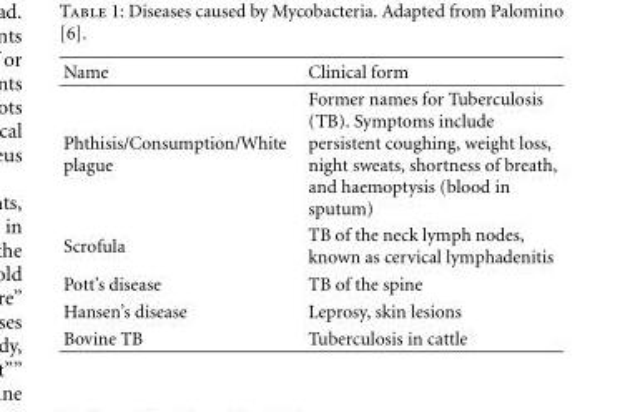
<table><thead><tr><td>Name</td><td>Clinical form</td></tr></thead><tbody><tr><td>Phthisis/Consumption/White plague</td><td>Former names for Tuberculosis (TB). Symptoms include persistent coughing, weight loss, night sweats, shortness of breath, and haemoptysis (blood in sputum)</td></tr><tr><td>Scrofula</td><td>TB of the neck lymph nodes, known as cervical lymphadenitis</td></tr><tr><td>Pott’s disease</td><td>TB of the spine</td></tr><tr><td>Hansen’s disease</td><td>Leprosy, skin lesions</td></tr><tr><td>Bovine TB</td><td>Tuberculosis in cattle</td></tr></tbody></table>